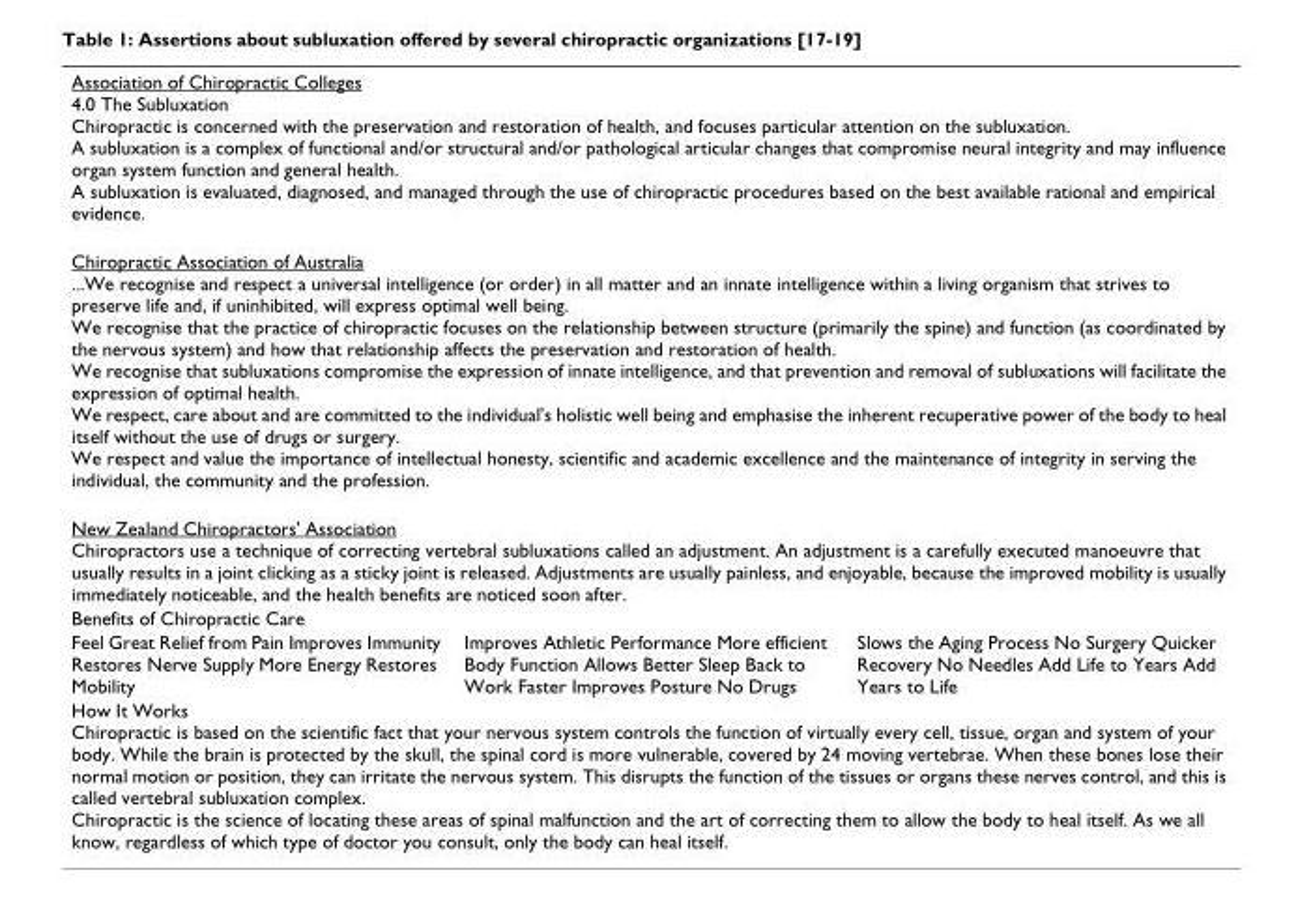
<table><tbody><tr><td colspan="3">Association of Chiropractic Colleges 4.0 The Subluxation Chiropractic is concerned with the preservation and restoration of health, and focuses particular attention on the subluxation. A subluxation is a complex of functional and/or structural and/or pathological articular changes that compromise neural integrity and may influence organ system function and general health. A subluxation is evaluated, diagnosed, and managed through the use of chiropractic procedures based on the best available rational and empirical evidence.</td></tr><tr><td colspan="3">Chiropractic Association of Australia ...We recognise and respect a universal intelligence (or order) in all matter and an innate intelligence within a living organism that strives to preserve life and, if uninhibited, will express optimal well being. We recognise that the practice of chiropractic focuses on the relationship between structure (primarily the spine) and function (as coordinated by the nervous system) and how that relationship affects the preservation and restoration of health. We recognise that subluxations compromise the expression of innate intelligence, and that prevention and removal of subluxations will facilitate the expression of optimal health. We respect, care about and are committed to the individual&#x27;s holistic well being and emphasise the inherent recuperative power of the body to heal itself without the use of drugs or surgery. We respect and value the importance of intellectual honesty, scientific and academic excellence and the maintenance of integrity in serving the individual, the community and the profession.</td></tr><tr><td colspan="3">New Zealand Chiropractors&#x27; Association Chiropractors use a technique of correcting vertebral subluxations called an adjustment. An adjustment is a carefully executed manoeuvre that usually results in a joint clicking as a sticky joint is released. Adjustments are usually painless, and enjoyable, because the improved mobility is usually immediately noticeable, and the health benefits are noticed soon after.</td></tr><tr><td colspan="3">Benefits of Chiropractic Care</td></tr><tr><td>Feel Great Relief from Pain Improves Immunity Restores Nerve Supply More Energy Restores Mobility</td><td>Improves Athletic Performance More efficient Body Function Allows Better Sleep Back to Work Faster Improves Posture No Drugs</td><td>Slows the Aging Process No Surgery Quicker Recovery No Needles Add Life to Years Add Years to Life</td></tr><tr><td colspan="3">How It Works Chiropractic is based on the scientific fact that your nervous system controls the function of virtually every cell, tissue, organ and system of your body. While the brain is protected by the skull, the spinal cord is more vulnerable, covered by 24 moving vertebrae. When these bones lose their normal motion or position, they can irritate the nervous system. This disrupts the function of the tissues or organs these nerves control, and this is called vertebral subluxation complex. Chiropractic is the science of locating these areas of spinal malfunction and the art of correcting them to allow the body to heal itself. As we all know, regardless of which type of doctor you consult, only the body can heal itself.</td></tr></tbody></table>